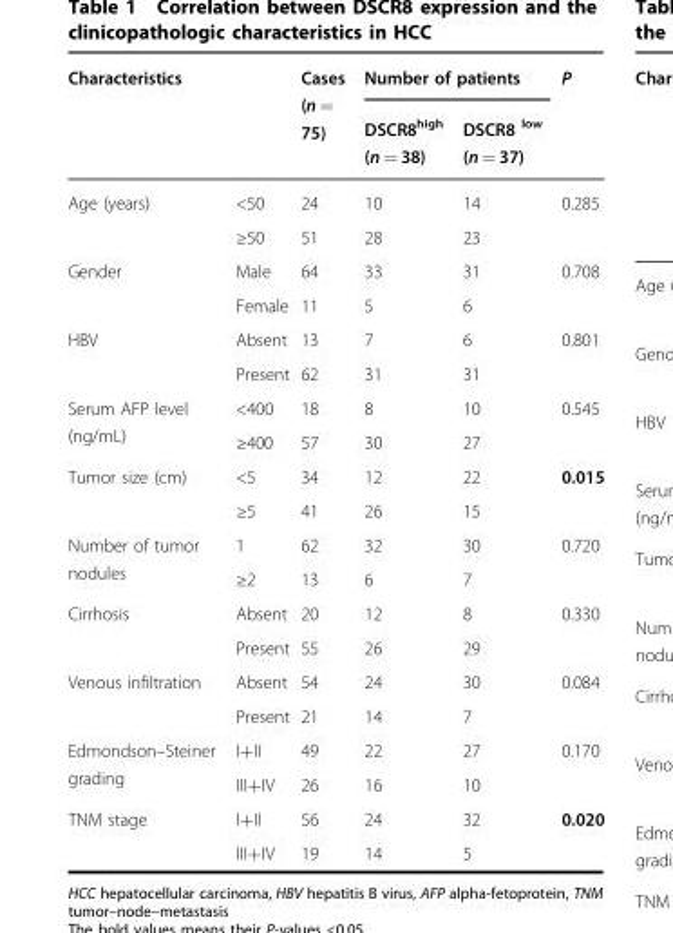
<table><thead><tr><td rowspan="2">Characteristics</td><td rowspan="2"></td><td rowspan="2">Cases (n = 75)</td><td colspan="2">Number of patients</td><td rowspan="2">P</td></tr><tr><td>DSCR8<sup>high</sup> (n = 38)</td><td>DSCR8 <sup>low</sup> (n = 37)</td></tr></thead><tbody><tr><td rowspan="2">Age (years)</td><td>&lt;50</td><td>24</td><td>10</td><td>14</td><td rowspan="2">0.285</td></tr><tr><td>≥50</td><td>51</td><td>28</td><td>23</td></tr><tr><td rowspan="2">Gender</td><td>Male</td><td>64</td><td>33</td><td>31</td><td rowspan="2">0.708</td></tr><tr><td>Female</td><td>11</td><td>5</td><td>6</td></tr><tr><td rowspan="2">HBV</td><td>Absent</td><td>13</td><td>7</td><td>6</td><td rowspan="2">0.801</td></tr><tr><td>Present</td><td>62</td><td>31</td><td>31</td></tr><tr><td rowspan="2">Serum AFP level (ng/mL)</td><td>&lt;400</td><td>18</td><td>8</td><td>10</td><td rowspan="2">0.545</td></tr><tr><td>≥400</td><td>57</td><td>30</td><td>27</td></tr><tr><td rowspan="2">Tumor size (cm)</td><td>&lt;5</td><td>34</td><td>12</td><td>22</td><td rowspan="2">0.015</td></tr><tr><td>≥5</td><td>41</td><td>26</td><td>15</td></tr><tr><td rowspan="2">Number of tumor nodules</td><td>1</td><td>62</td><td>32</td><td>30</td><td rowspan="2">0.720</td></tr><tr><td>≥2</td><td>13</td><td>6</td><td>7</td></tr><tr><td rowspan="2">Cirrhosis</td><td>Absent</td><td>20</td><td>12</td><td>8</td><td rowspan="2">0.330</td></tr><tr><td>Present</td><td>55</td><td>26</td><td>29</td></tr><tr><td rowspan="2">Venous infiltration</td><td>Absent</td><td>54</td><td>24</td><td>30</td><td rowspan="2">0.084</td></tr><tr><td>Present</td><td>21</td><td>14</td><td>7</td></tr><tr><td rowspan="2">Edmondson–Steiner grading</td><td>I+II</td><td>49</td><td>22</td><td>27</td><td rowspan="2">0.170</td></tr><tr><td>III+IV</td><td>26</td><td>16</td><td>10</td></tr><tr><td rowspan="2">TNM stage</td><td>I+II</td><td>56</td><td>24</td><td>32</td><td rowspan="2">0.020</td></tr><tr><td>III+IV</td><td>19</td><td>14</td><td>5</td></tr></tbody></table>